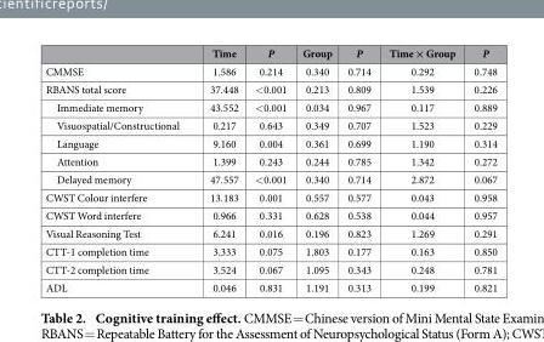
<table><thead><tr><td></td><td>Time</td><td>P</td><td>Group</td><td>P</td><td>Time × Group</td><td>P</td></tr></thead><tbody><tr><td>CMMSE</td><td>1.586</td><td>0.214</td><td>0.340</td><td>0.714</td><td>0.292</td><td>0.748</td></tr><tr><td>RBANS total score</td><td>37.448</td><td>&lt; 0.001</td><td>0.213</td><td>0.809</td><td>1.539</td><td>0.226</td></tr><tr><td>Immediate memory</td><td>43.552</td><td>&lt; 0.001</td><td>0.034</td><td>0.967</td><td>0.117</td><td>0.889</td></tr><tr><td>Visuospatial/Constructional</td><td>0.217</td><td>0.643</td><td>0.349</td><td>0.707</td><td>1.523</td><td>0.229</td></tr><tr><td>Language</td><td>9.160</td><td>0.004</td><td>0.361</td><td>0.699</td><td>1.190</td><td>0.314</td></tr><tr><td>Attention</td><td>1.399</td><td>0.243</td><td>0.244</td><td>0.785</td><td>1.342</td><td>0.272</td></tr><tr><td>Delayed memory</td><td>47.557</td><td>&lt; 0.001</td><td>0.340</td><td>0.714</td><td>2.872</td><td>0.067</td></tr><tr><td>CWST Colour interfere</td><td>13.183</td><td>0.001</td><td>0.557</td><td>0.577</td><td>0.043</td><td>0.958</td></tr><tr><td>CWST Word interfere</td><td>0.966</td><td>0.331</td><td>0.628</td><td>0.538</td><td>0.044</td><td>0.957</td></tr><tr><td>Visual Reasoning Test</td><td>6.241</td><td>0.016</td><td>0.196</td><td>0.823</td><td>1.269</td><td>0.291</td></tr><tr><td>CTT-1 completion time</td><td>3.333</td><td>0.075</td><td>1.803</td><td>0.177</td><td>0.163</td><td>0.850</td></tr><tr><td>CTT-2 completion time</td><td>3.524</td><td>0.067</td><td>1.095</td><td>0.343</td><td>0.248</td><td>0.781</td></tr><tr><td>ADL</td><td>0.046</td><td>0.831</td><td>1.191</td><td>0.313</td><td>0.199</td><td>0.821</td></tr></tbody></table>